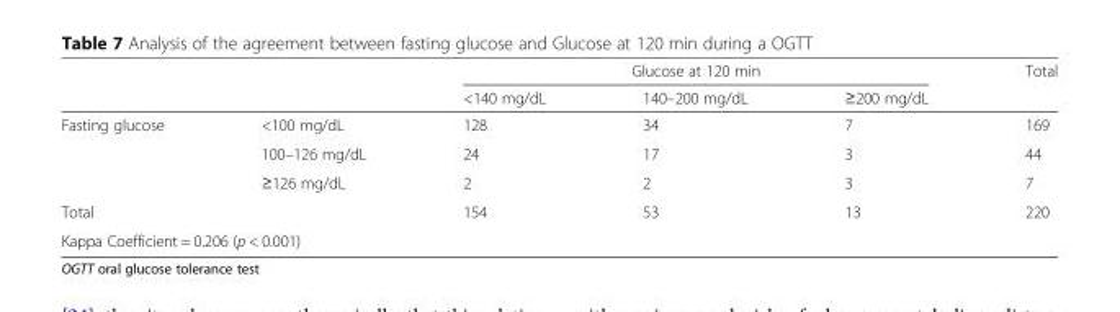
<table><thead><tr><td rowspan="2"></td><td rowspan="2"></td><td colspan="3">Glucose at 120 min</td><td rowspan="2">Total</td></tr><tr><td>&lt;140 mg/dL</td><td>140–200 mg/dL</td><td>≥200 mg/dL</td></tr></thead><tbody><tr><td rowspan="3">Fasting glucose</td><td>&lt;100 mg/dL</td><td>128</td><td>34</td><td>7</td><td>169</td></tr><tr><td>100–126 mg/dL</td><td>24</td><td>17</td><td>3</td><td>44</td></tr><tr><td>≥126 mg/dL</td><td>2</td><td>2</td><td>3</td><td>7</td></tr><tr><td>Total</td><td></td><td>154</td><td>53</td><td>13</td><td>220</td></tr><tr><td colspan="6">Kappa Coefficient = 0.206 (p &lt; 0.001)</td></tr></tbody></table>